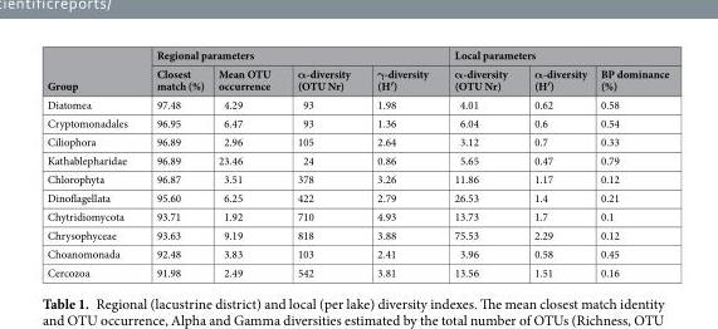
<table><thead><tr><td rowspan="2">Group</td><td colspan="4">Regional parameters</td><td colspan="3">Local parameters</td></tr><tr><td>Closest match (%)</td><td>Mean OTU occurrence</td><td>α-diversity (OTU Nr)</td><td>γ-diversity (H′)</td><td>α-diversity (OTU Nr)</td><td>α-diversity (H′)</td><td>BP dominance (%)</td></tr></thead><tbody><tr><td>Diatomea</td><td>97.48</td><td>4.29</td><td>93</td><td>1.98</td><td>4.01</td><td>0.62</td><td>0.58</td></tr><tr><td>Cryptomonadales</td><td>96.95</td><td>6.47</td><td>93</td><td>1.36</td><td>6.04</td><td>0.6</td><td>0.54</td></tr><tr><td>Ciliophora</td><td>96.89</td><td>2.96</td><td>105</td><td>2.64</td><td>3.12</td><td>0.7</td><td>0.33</td></tr><tr><td>Kathablepharidae</td><td>96.89</td><td>23.46</td><td>24</td><td>0.86</td><td>5.65</td><td>0.47</td><td>0.79</td></tr><tr><td>Chlorophyta</td><td>96.87</td><td>3.51</td><td>378</td><td>3.26</td><td>11.86</td><td>1.17</td><td>0.12</td></tr><tr><td>Dinoflagellata</td><td>95.60</td><td>6.25</td><td>422</td><td>2.79</td><td>26.53</td><td>1.4</td><td>0.21</td></tr><tr><td>Chytridiomycota</td><td>93.71</td><td>1.92</td><td>710</td><td>4.93</td><td>13.73</td><td>1.7</td><td>0.1</td></tr><tr><td>Chrysophyceae</td><td>93.63</td><td>9.19</td><td>818</td><td>3.88</td><td>75.53</td><td>2.29</td><td>0.12</td></tr><tr><td>Choanomonada</td><td>92.48</td><td>3.83</td><td>103</td><td>2.41</td><td>3.96</td><td>0.58</td><td>0.45</td></tr><tr><td>Cercozoa</td><td>91.98</td><td>2.49</td><td>542</td><td>3.81</td><td>13.56</td><td>1.51</td><td>0.16</td></tr></tbody></table>